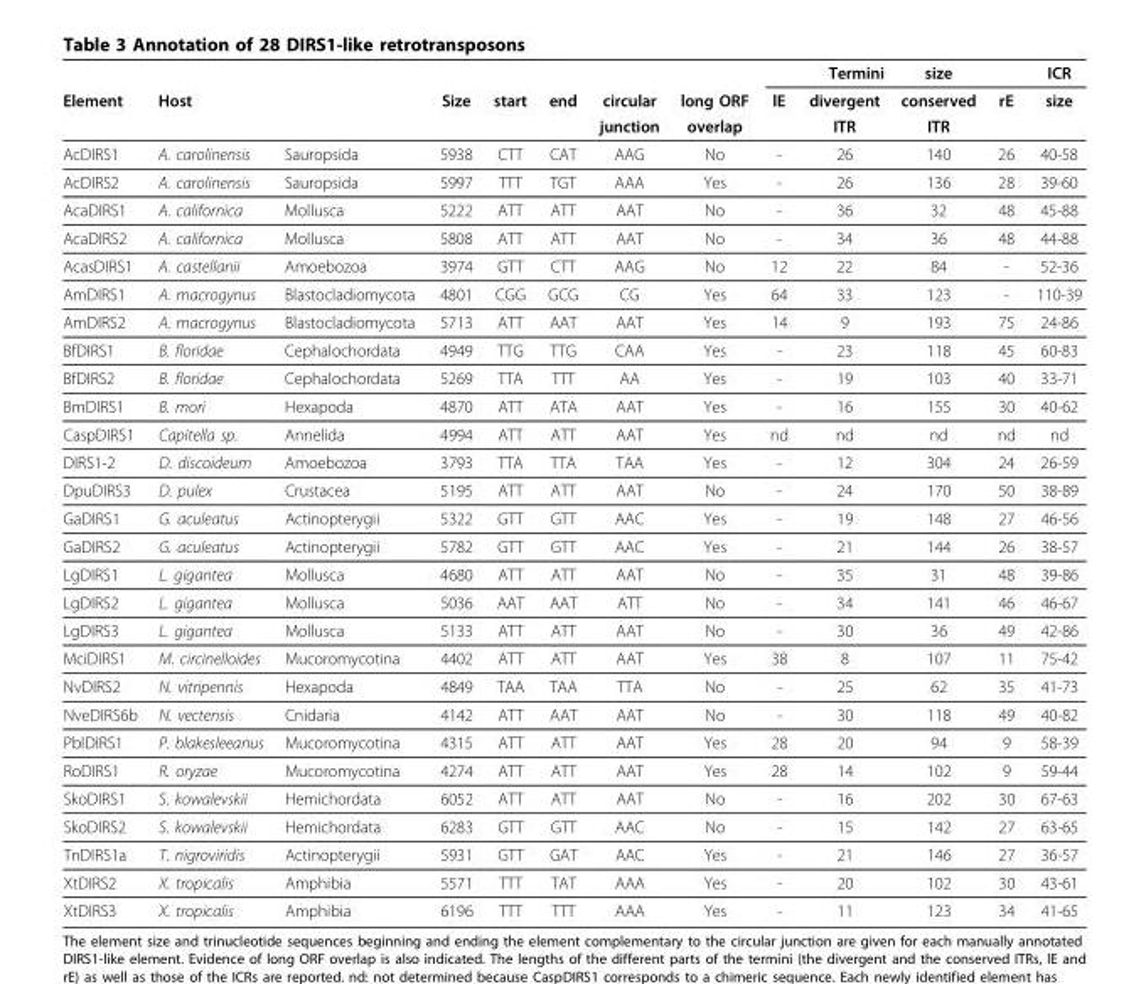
<table><thead><tr><td rowspan="3">Element</td><td rowspan="3">Host</td><td rowspan="3"></td><td rowspan="3">Size</td><td rowspan="3">start</td><td rowspan="3">end</td><td rowspan="3">circular junction</td><td rowspan="3">long ORF overlap</td><td rowspan="3">lE</td><td rowspan="3">Termini divergent ITR</td><td rowspan="3">size conserved ITR</td><td rowspan="3">rE</td><td rowspan="3">ICR size</td></tr><tr></tr><tr></tr></thead><tbody><tr><td>AcDIRS1</td><td>A. carolinensis</td><td>Sauropsida</td><td>5938</td><td>CTT</td><td>CAT</td><td>AAG</td><td>No</td><td>-</td><td>26</td><td>140</td><td>26</td><td>40-58</td></tr><tr><td>AcDIRS2</td><td>A. carolinensis</td><td>Sauropsida</td><td>5997</td><td>TTT</td><td>TGT</td><td>AAA</td><td>Yes</td><td>-</td><td>26</td><td>136</td><td>28</td><td>39-60</td></tr><tr><td>AcaDIRS1</td><td>A. californica</td><td>Mollusca</td><td>5222</td><td>ATT</td><td>ATT</td><td>AAT</td><td>No</td><td>-</td><td>36</td><td>32</td><td>48</td><td>45-88</td></tr><tr><td>AcaDIRS2</td><td>A. californica</td><td>Mollusca</td><td>5808</td><td>ATT</td><td>ATT</td><td>AAT</td><td>No</td><td>-</td><td>34</td><td>36</td><td>48</td><td>44-88</td></tr><tr><td>AcasDIRS1</td><td>A. castellanii</td><td>Amoebozoa</td><td>3974</td><td>GTT</td><td>CTT</td><td>AAG</td><td>No</td><td>12</td><td>22</td><td>84</td><td>-</td><td>52-36</td></tr><tr><td>AmDIRS1</td><td>A. macrogynus</td><td>Blastocladiomycota</td><td>4801</td><td>CGG</td><td>GCG</td><td>CG</td><td>Yes</td><td>64</td><td>33</td><td>123</td><td>-</td><td>110-39</td></tr><tr><td>AmDIRS2</td><td>A. macrogynus</td><td>Blastocladiomycota</td><td>5713</td><td>ATT</td><td>AAT</td><td>AAT</td><td>Yes</td><td>14</td><td>9</td><td>193</td><td>75</td><td>24-86</td></tr><tr><td>BfDIRS1</td><td>B. floridae</td><td>Cephalochordata</td><td>4949</td><td>TTG</td><td>TTG</td><td>CAA</td><td>Yes</td><td>-</td><td>23</td><td>118</td><td>45</td><td>60-83</td></tr><tr><td>BfDIRS2</td><td>B. floridae</td><td>Cephalochordata</td><td>5269</td><td>TTA</td><td>TTT</td><td>AA</td><td>Yes</td><td>-</td><td>19</td><td>103</td><td>40</td><td>33-71</td></tr><tr><td>BmDIRS1</td><td>B. mori</td><td>Hexapoda</td><td>4870</td><td>ATT</td><td>ATA</td><td>AAT</td><td>Yes</td><td>-</td><td>16</td><td>155</td><td>30</td><td>40-62</td></tr><tr><td>CaspDIRS1</td><td>Capitella sp.</td><td>Annelida</td><td>4994</td><td>ATT</td><td>ATT</td><td>AAT</td><td>Yes</td><td>nd</td><td>nd</td><td>nd</td><td>nd</td><td>nd</td></tr><tr><td>DIRS1-2</td><td>D. discoideum</td><td>Amoebozoa</td><td>3793</td><td>TTA</td><td>TTA</td><td>TAA</td><td>Yes</td><td>-</td><td>12</td><td>304</td><td>24</td><td>26-59</td></tr><tr><td>DpuDIRS3</td><td>D. pulex</td><td>Crustacea</td><td>5195</td><td>ATT</td><td>ATT</td><td>AAT</td><td>No</td><td>-</td><td>24</td><td>170</td><td>50</td><td>38-89</td></tr><tr><td>GaDIRS1</td><td>G. aculeatus</td><td>Actinopterygii</td><td>5322</td><td>GTT</td><td>GTT</td><td>AAC</td><td>Yes</td><td>-</td><td>19</td><td>148</td><td>27</td><td>46-56</td></tr><tr><td>GaDIRS2</td><td>G. aculeatus</td><td>Actinopterygii</td><td>5782</td><td>GTT</td><td>GTT</td><td>AAC</td><td>Yes</td><td>-</td><td>21</td><td>144</td><td>26</td><td>38-57</td></tr><tr><td>LgDIRS1</td><td>L. gigantea</td><td>Mollusca</td><td>4680</td><td>ATT</td><td>ATT</td><td>AAT</td><td>No</td><td>-</td><td>35</td><td>31</td><td>48</td><td>39-86</td></tr><tr><td>LgDIRS2</td><td>L. gigantea</td><td>Mollusca</td><td>5036</td><td>AAT</td><td>AAT</td><td>ATT</td><td>No</td><td>-</td><td>34</td><td>141</td><td>46</td><td>46-67</td></tr><tr><td>LgDIRS3</td><td>L. gigantea</td><td>Mollusca</td><td>5133</td><td>ATT</td><td>ATT</td><td>AAT</td><td>No</td><td>-</td><td>30</td><td>36</td><td>49</td><td>42-86</td></tr><tr><td>MciDIRS1</td><td>M. circinelloides</td><td>Mucoromycotina</td><td>4402</td><td>ATT</td><td>ATT</td><td>AAT</td><td>Yes</td><td>38</td><td>8</td><td>107</td><td>11</td><td>75-42</td></tr><tr><td>NvDIRS2</td><td>N. vitripennis</td><td>Hexapoda</td><td>4849</td><td>TAA</td><td>TAA</td><td>TTA</td><td>No</td><td>-</td><td>25</td><td>62</td><td>35</td><td>41-73</td></tr><tr><td>NveDIRS6b</td><td>N. vectensis</td><td>Cnidaria</td><td>4142</td><td>ATT</td><td>AAT</td><td>AAT</td><td>No</td><td>-</td><td>30</td><td>118</td><td>49</td><td>40-82</td></tr><tr><td>PblDIRS1</td><td>P. blakesleeanus</td><td>Mucoromycotina</td><td>4315</td><td>ATT</td><td>ATT</td><td>AAT</td><td>Yes</td><td>28</td><td>20</td><td>94</td><td>9</td><td>58-39</td></tr><tr><td>RoDIRS1</td><td>R. oryzae</td><td>Mucoromycotina</td><td>4274</td><td>ATT</td><td>ATT</td><td>AAT</td><td>Yes</td><td>28</td><td>14</td><td>102</td><td>9</td><td>59-44</td></tr><tr><td>SkoDIRS1</td><td>S. kowalevskii</td><td>Hemichordata</td><td>6052</td><td>ATT</td><td>ATT</td><td>AAT</td><td>No</td><td>-</td><td>16</td><td>202</td><td>30</td><td>67-63</td></tr><tr><td>SkoDIRS2</td><td>S. kowalevskii</td><td>Hemichordata</td><td>6283</td><td>GTT</td><td>GTT</td><td>AAC</td><td>No</td><td>-</td><td>15</td><td>142</td><td>27</td><td>63-65</td></tr><tr><td>TnDIRS1a</td><td>T. nigroviridis</td><td>Actinopterygii</td><td>5931</td><td>GTT</td><td>GAT</td><td>AAC</td><td>Yes</td><td>-</td><td>21</td><td>146</td><td>27</td><td>36-57</td></tr><tr><td>XtDIRS2</td><td>X. tropicalis</td><td>Amphibia</td><td>5571</td><td>TTT</td><td>TAT</td><td>AAA</td><td>Yes</td><td>-</td><td>20</td><td>102</td><td>30</td><td>43-61</td></tr><tr><td>XtDIRS3</td><td>X. tropicalis</td><td>Amphibia</td><td>6196</td><td>TTT</td><td>TTT</td><td>AAA</td><td>Yes</td><td>-</td><td>11</td><td>123</td><td>34</td><td>41-65</td></tr></tbody></table>